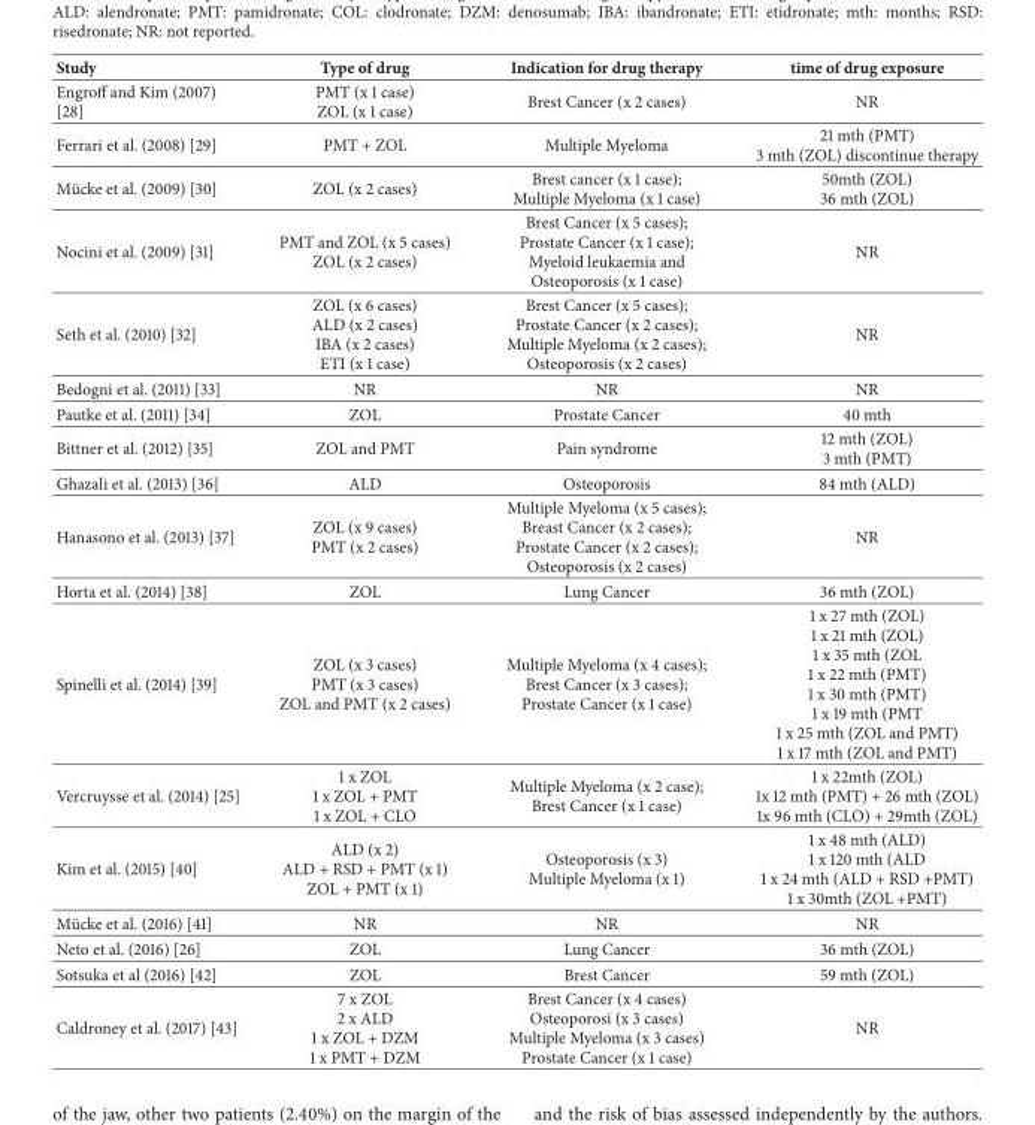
<table><thead><tr><td>Study</td><td>Type of drug</td><td>Indication for drug therapy</td><td>time of drug exposure</td></tr></thead><tbody><tr><td>Engroff and Kim (2007) [28]</td><td>PMT (x 1 case) ZOL (x 1 case)</td><td>Brest Cancer (x 2 cases)</td><td>NR</td></tr><tr><td>Ferrari et al. (2008) [29]</td><td>PMT + ZOL</td><td>Multiple Myeloma</td><td>21 mth (PMT) 3 mth (ZOL) discontinue therapy</td></tr><tr><td>M¨ucke et al. (2009) [30]</td><td>ZOL (x 2 cases)</td><td>Brest cancer (x 1 case); Multiple Myeloma (x 1 case)</td><td>50mth (ZOL) 36 mth (ZOL)</td></tr><tr><td>Nocini et al. (2009) [31]</td><td>PMT and ZOL (x 5 cases) ZOL (x 2 cases)</td><td>Brest Cancer (x 5 cases); Prostate Cancer (x 1 case); Myeloid leukaemia and Osteoporosis (x 1 case)</td><td>NR</td></tr><tr><td>Seth et al. (2010) [32]</td><td>ZOL (x 6 cases) ALD (x 2 cases) IBA (x 2 cases) ETI (x 1 case)</td><td>Brest Cancer (x 5 cases); Prostate Cancer (x 2 cases); Multiple Myeloma (x 2 cases); Osteoporosis (x 2 cases)</td><td>NR</td></tr><tr><td>Bedogni et al. (2011) [33]</td><td>NR</td><td>NR</td><td>NR</td></tr><tr><td>Pautke et al. (2011) [34]</td><td>ZOL</td><td>Prostate Cancer</td><td>40 mth</td></tr><tr><td>Bittner et al. (2012) [35]</td><td>ZOL and PMT</td><td>Pain syndrome</td><td>12 mth (ZOL) 3 mth (PMT)</td></tr><tr><td>Ghazali et al. (2013) [36]</td><td>ALD</td><td>Osteoporosis</td><td>84 mth (ALD)</td></tr><tr><td>Hanasono et al. (2013) [37]</td><td>ZOL (x 9 cases) PMT (x 2 cases)</td><td>Multiple Myeloma (x 5 cases); Breast Cancer (x 2 cases); Prostate Cancer (x 2 cases); Osteoporosis (x 2 cases)</td><td>NR</td></tr><tr><td>Horta et al. (2014) [38]</td><td>ZOL</td><td>Lung Cancer</td><td>36 mth (ZOL)</td></tr><tr><td>Spinelli et al. (2014) [39]</td><td>ZOL (x 3 cases) PMT (x 3 cases) ZOL and PMT (x 2 cases)</td><td>Multiple Myeloma (x 4 cases); Brest Cancer (x 3 cases); Prostate Cancer (x 1 case)</td><td>1 x 27 mth (ZOL) 1 x 21 mth (ZOL) 1 x 35 mth (ZOL 1 x 22 mth (PMT) 1 x 30 mth (PMT) 1 x 19 mth (PMT 1 x 25 mth (ZOL and PMT) 1 x 17 mth (ZOL and PMT)</td></tr><tr><td>Vercruysse et al. (2014) [25]</td><td>1 x ZOL 1 x ZOL + PMT 1 x ZOL + CLO</td><td>Multiple Myeloma (x 2 case); Brest Cancer (x 1 case)</td><td>1 x 22mth (ZOL) 1x 12 mth (PMT) + 26 mth (ZOL) 1x 96 mth (CLO) + 29mth (ZOL)</td></tr><tr><td>Kim et al. (2015) [40]</td><td>ALD (x 2) ALD + RSD + PMT (x 1) ZOL + PMT (x 1)</td><td>Osteoporosis (x 3) Multiple Myeloma (x 1)</td><td>1 x 48 mth (ALD) 1 x 120 mth (ALD 1 x 24 mth (ALD + RSD +PMT) 1 x 30mth (ZOL +PMT)</td></tr><tr><td>M¨ucke et al. (2016) [41]</td><td>NR</td><td>NR</td><td>NR</td></tr><tr><td>Neto et al. (2016) [26]</td><td>ZOL</td><td>Lung Cancer</td><td>36 mth (ZOL)</td></tr><tr><td>Sotsuka et al (2016) [42]</td><td>ZOL</td><td>Brest Cancer</td><td>59 mth (ZOL)</td></tr><tr><td>Caldroney et al. (2017) [43]</td><td>7 x ZOL 2 x ALD 1 x ZOL + DZM 1 x PMT + DZM</td><td>Brest Cancer (x 4 cases) Osteoporosi (x 3 cases) Multiple Myeloma (x 3 cases) Prostate Cancer (x 1 case)</td><td>NR</td></tr></tbody></table>